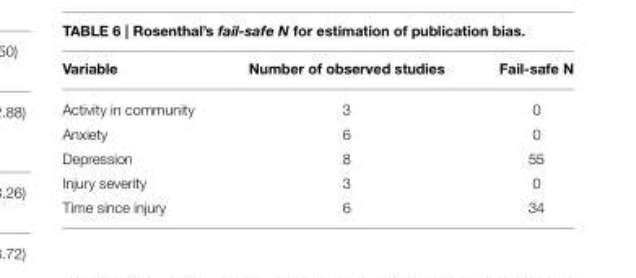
<table><thead><tr><td>Variable</td><td>Number of observed studies</td><td>Fail-safe N</td></tr></thead><tbody><tr><td>Activity in community</td><td>3</td><td>0</td></tr><tr><td>Anxiety</td><td>6</td><td>0</td></tr><tr><td>Depression</td><td>8</td><td>55</td></tr><tr><td>Injury severity</td><td>3</td><td>0</td></tr><tr><td>Time since injury</td><td>6</td><td>34</td></tr></tbody></table>